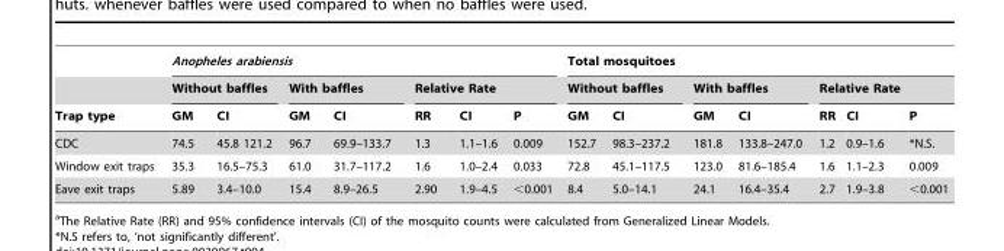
<table><thead><tr><td rowspan="3">Trap type</td><td colspan="7">Anopheles arabiensis</td><td colspan="7">Total mosquitoes</td></tr><tr><td colspan="2">Without baffles</td><td colspan="2">With baffles</td><td colspan="3">Relative Rate</td><td colspan="2">Without baffles</td><td colspan="2">With baffles</td><td colspan="3">Relative Rate</td></tr><tr><td>GM</td><td>CI</td><td>GM</td><td>CI</td><td>RR</td><td>CI</td><td>P</td><td>GM</td><td>CI</td><td>GM</td><td>CI</td><td>RR</td><td>CI</td><td>P</td></tr></thead><tbody><tr><td>CDC</td><td>74.5</td><td>45.8 121.2</td><td>96.7</td><td>69.9–133.7</td><td>1.3</td><td>1.1–1.6</td><td>0.009</td><td>152.7</td><td>98.3–237.2</td><td>181.8</td><td>133.8–247.0</td><td>1.2</td><td>0.9–1.6</td><td>*N.S.</td></tr><tr><td>Window exit traps</td><td>35.3</td><td>16.5–75.3</td><td>61.0</td><td>31.7–117.2</td><td>1.6</td><td>1.0–2.4</td><td>0.033</td><td>72.8</td><td>45.1–117.5</td><td>123.0</td><td>81.6–185.4</td><td>1.6</td><td>1.1–2.3</td><td>0.009</td></tr><tr><td>Eave exit traps</td><td>5.89</td><td>3.4–10.0</td><td>15.4</td><td>8.9–26.5</td><td>2.90</td><td>1.9–4.5</td><td>&lt;0.001</td><td>8.4</td><td>5.0–14.1</td><td>24.1</td><td>16.4–35.4</td><td>2.7</td><td>1.9–3.8</td><td>&lt;0.001</td></tr></tbody></table>